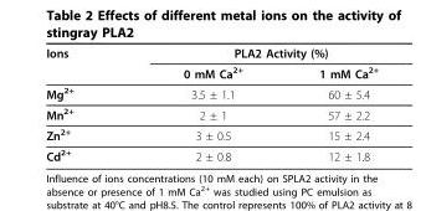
<table><thead><tr><td rowspan="2">Ions</td><td colspan="2">PLA2 Activity (%)</td></tr><tr><td>0 mM Ca<sup>2+</sup></td><td>1 mM Ca<sup>2+</sup></td></tr></thead><tbody><tr><td>Mg<sup>2+</sup></td><td>3.5 ± 1.1</td><td>60 ± 5.4</td></tr><tr><td>Mn<sup>2+</sup></td><td>2 ± 1</td><td>57 ± 2.2</td></tr><tr><td>Zn<sup>2+</sup></td><td>3 ± 0.5</td><td>15 ± 2.4</td></tr><tr><td>Cd<sup>2+</sup></td><td>2 ± 0.8</td><td>12 ± 1.8</td></tr></tbody></table>